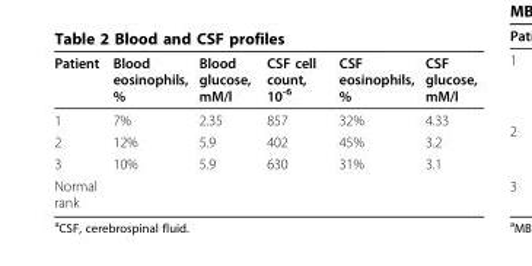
<table><thead><tr><td>Patient</td><td>Blood eosinophils, %</td><td>Blood glucose, mM/l</td><td>CSF cell count, 10<sup>-6</sup></td><td>CSF eosinophils, %</td><td>CSF glucose, mM/l</td></tr></thead><tbody><tr><td>1</td><td>7%</td><td>2.35</td><td>857</td><td>32%</td><td>4.33</td></tr><tr><td>2</td><td>12%</td><td>5.9</td><td>402</td><td>45%</td><td>3.2</td></tr><tr><td>3</td><td>10%</td><td>5.9</td><td>630</td><td>31%</td><td>3.1</td></tr><tr><td>Normal rank</td><td></td><td></td><td></td><td></td><td></td></tr></tbody></table>